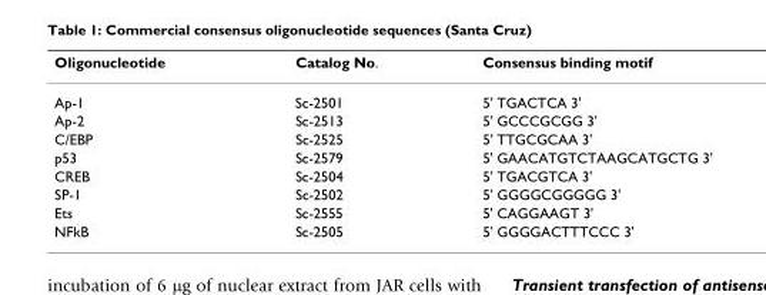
<table><thead><tr><td>Oligonucleotide</td><td>Catalog No.</td><td>Consensus binding motif</td></tr></thead><tbody><tr><td>Ap-1</td><td>Sc-2501</td><td>5&#x27; TGACTCA 3&#x27;</td></tr><tr><td>Ap-2</td><td>Sc-2513</td><td>5&#x27; GCCCGCGG 3&#x27;</td></tr><tr><td>C/EBP</td><td>Sc-2525</td><td>5&#x27; TTGCGCAA 3&#x27;</td></tr><tr><td>p53</td><td>Sc-2579</td><td>5&#x27; GAACATGTCTAAGCATGCTG 3&#x27;</td></tr><tr><td>CREB</td><td>Sc-2504</td><td>5&#x27; TGACGTCA 3&#x27;</td></tr><tr><td>SP-1</td><td>Sc-2502</td><td>5&#x27; GGGGCGGGGG 3&#x27;</td></tr><tr><td>Ets</td><td>Sc-2555</td><td>5&#x27; CAGGAAGT 3&#x27;</td></tr><tr><td>NFkB</td><td>Sc-2505</td><td>5&#x27; GGGGACTTTCCC 3&#x27;</td></tr></tbody></table>